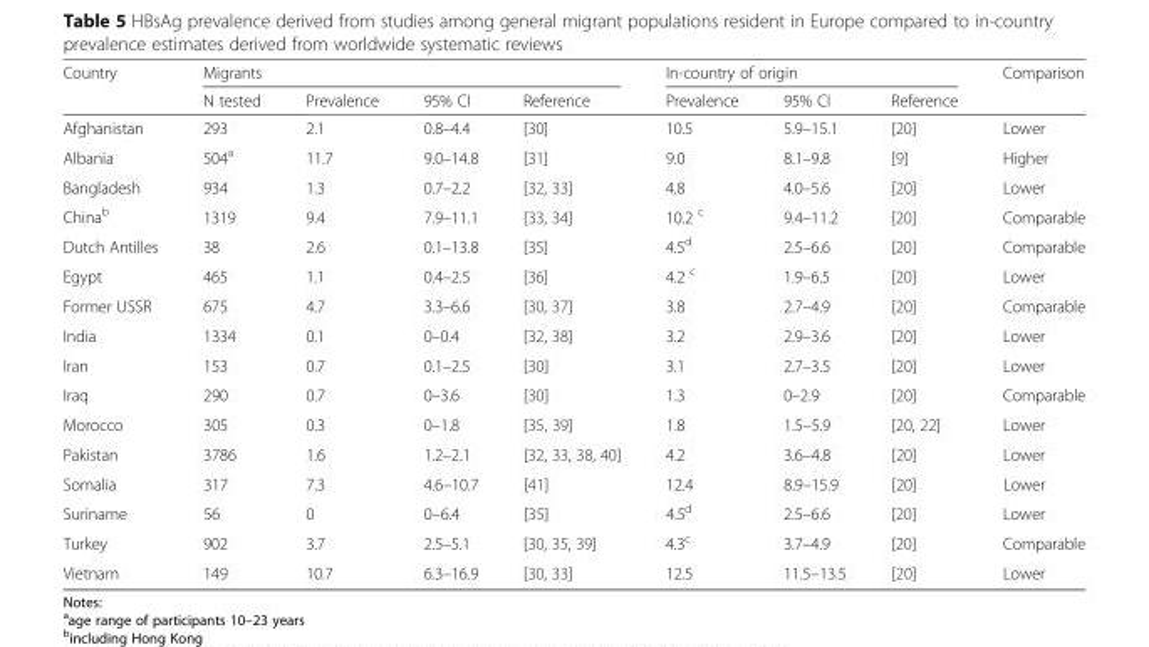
<table><thead><tr><td rowspan="2">Country</td><td colspan="4">Migrants</td><td colspan="3">In-country of origin</td><td rowspan="2">Comparison</td></tr><tr><td>N tested</td><td>Prevalence</td><td>95% CI</td><td>Reference</td><td>Prevalence</td><td>95% CI</td><td>Reference</td></tr></thead><tbody><tr><td>Afghanistan</td><td>293</td><td>2.1</td><td>0.8–4.4</td><td>[30]</td><td>10.5</td><td>5.9–15.1</td><td>[20]</td><td>Lower</td></tr><tr><td>Albania</td><td>504<sup>a</sup></td><td>11.7</td><td>9.0–14.8</td><td>[31]</td><td>9.0</td><td>8.1–9.8</td><td>[9]</td><td>Higher</td></tr><tr><td>Bangladesh</td><td>934</td><td>1.3</td><td>0.7–2.2</td><td>[32, 33]</td><td>4.8</td><td>4.0–5.6</td><td>[20]</td><td>Lower</td></tr><tr><td>China<sup>b</sup></td><td>1319</td><td>9.4</td><td>7.9–11.1</td><td>[33, 34]</td><td>10.2 <sup>c</sup></td><td>9.4–11.2</td><td>[20]</td><td>Comparable</td></tr><tr><td>Dutch Antilles</td><td>38</td><td>2.6</td><td>0.1–13.8</td><td>[35]</td><td>4.5<sup>d</sup></td><td>2.5–6.6</td><td>[20]</td><td>Comparable</td></tr><tr><td>Egypt</td><td>465</td><td>1.1</td><td>0.4–2.5</td><td>[36]</td><td>4.2 <sup>c</sup></td><td>1.9–6.5</td><td>[20]</td><td>Lower</td></tr><tr><td>Former USSR</td><td>675</td><td>4.7</td><td>3.3–6.6</td><td>[30, 37]</td><td>3.8</td><td>2.7–4.9</td><td>[20]</td><td>Comparable</td></tr><tr><td>India</td><td>1334</td><td>0.1</td><td>0–0.4</td><td>[32, 38]</td><td>3.2</td><td>2.9–3.6</td><td>[20]</td><td>Lower</td></tr><tr><td>Iran</td><td>153</td><td>0.7</td><td>0.1–2.5</td><td>[30]</td><td>3.1</td><td>2.7–3.5</td><td>[20]</td><td>Lower</td></tr><tr><td>Iraq</td><td>290</td><td>0.7</td><td>0–3.6</td><td>[30]</td><td>1.3</td><td>0–2.9</td><td>[20]</td><td>Comparable</td></tr><tr><td>Morocco</td><td>305</td><td>0.3</td><td>0–1.8</td><td>[35, 39]</td><td>1.8</td><td>1.5–5.9</td><td>[20, 22]</td><td>Lower</td></tr><tr><td>Pakistan</td><td>3786</td><td>1.6</td><td>1.2–2.1</td><td>[32, 33, 38, 40]</td><td>4.2</td><td>3.6–4.8</td><td>[20]</td><td>Lower</td></tr><tr><td>Somalia</td><td>317</td><td>7.3</td><td>4.6–10.7</td><td>[41]</td><td>12.4</td><td>8.9–15.9</td><td>[20]</td><td>Lower</td></tr><tr><td>Suriname</td><td>56</td><td>0</td><td>0–6.4</td><td>[35]</td><td>4.5<sup>d</sup></td><td>2.5–6.6</td><td>[20]</td><td>Lower</td></tr><tr><td>Turkey</td><td>902</td><td>3.7</td><td>2.5–5.1</td><td>[30, 35, 39]</td><td>4.3<sup>c</sup></td><td>3.7–4.9</td><td>[20]</td><td>Comparable</td></tr><tr><td>Vietnam</td><td>149</td><td>10.7</td><td>6.3–16.9</td><td>[30, 33]</td><td>12.5</td><td>11.5–13.5</td><td>[20]</td><td>Lower</td></tr></tbody></table>